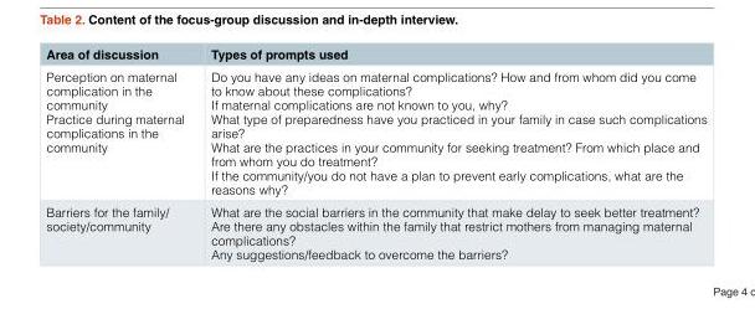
<table><thead><tr><td>Area of discussion</td><td>Types of prompts used</td></tr></thead><tbody><tr><td>Perception on maternal complication in the community Practice during maternal complications in the community</td><td>Do you have any ideas on maternal complications? How and from whom did you come to know about these complications? If maternal complications are not known to you, why? What type of preparedness have you practiced in your family in case such complications arise? What are the practices in your community for seeking treatment? From which place and from whom you do treatment? If the community/you do not have a plan to prevent early complications, what are the reasons why?</td></tr><tr><td>Barriers for the family/ society/community</td><td>What are the social barriers in the community that make delay to seek better treatment? Are there any obstacles within the family that restrict mothers from managing maternal complications? Any suggestions/feedback to overcome the barriers?</td></tr></tbody></table>